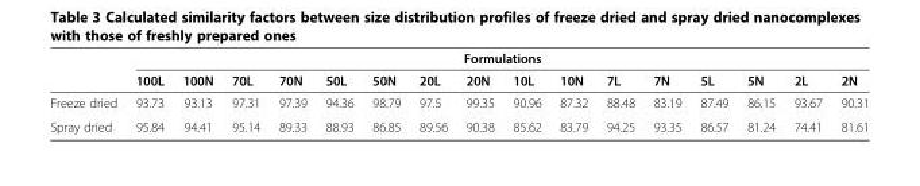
<table><thead><tr><td rowspan="2"></td><td colspan="16">Formulations</td></tr><tr><td>100L</td><td>100N</td><td>70L</td><td>70N</td><td>50L</td><td>50N</td><td>20L</td><td>20N</td><td>10L</td><td>10N</td><td>7L</td><td>7N</td><td>5L</td><td>5N</td><td>2L</td><td>2N</td></tr></thead><tbody><tr><td>Freeze dried</td><td>93.73</td><td>93.13</td><td>97.31</td><td>97.39</td><td>94.36</td><td>98.79</td><td>97.5</td><td>99.35</td><td>90.96</td><td>87.32</td><td>88.48</td><td>83.19</td><td>87.49</td><td>86.15</td><td>93.67</td><td>90.31</td></tr><tr><td>Spray dried</td><td>95.84</td><td>94.41</td><td>95.14</td><td>89.33</td><td>88.93</td><td>86.85</td><td>89.56</td><td>90.38</td><td>85.62</td><td>83.79</td><td>94.25</td><td>93.35</td><td>86.57</td><td>81.24</td><td>74.41</td><td>81.61</td></tr></tbody></table>